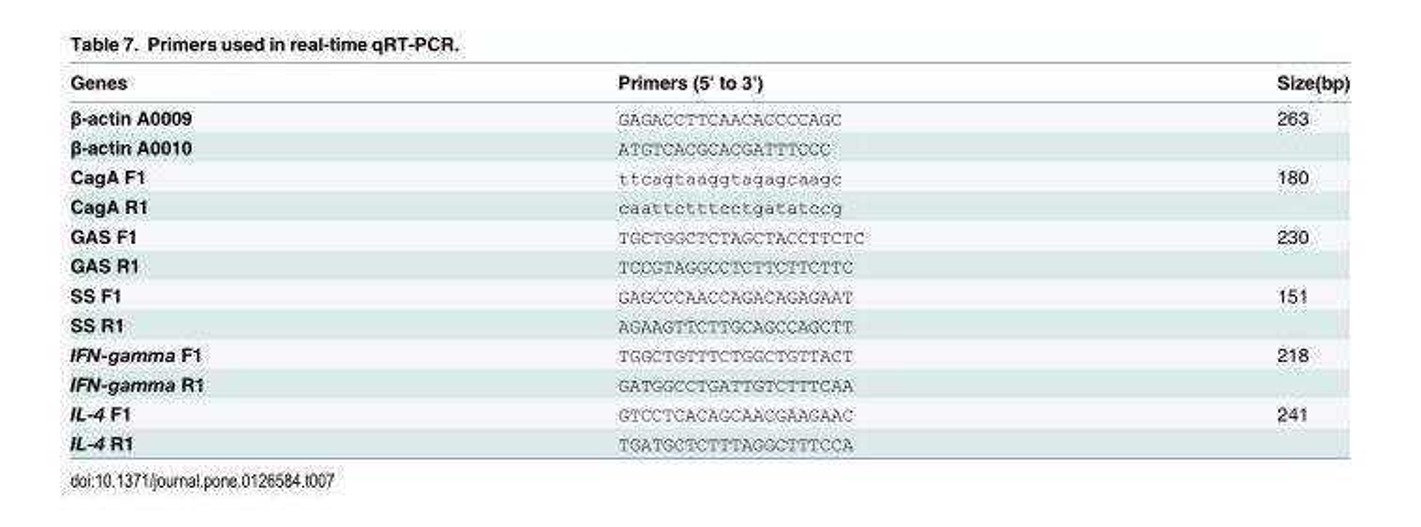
<table><thead><tr><td>Genes</td><td>Primers (5&#x27; to 3&#x27;)</td><td>Size(bp)</td></tr></thead><tbody><tr><td>β-actin A0009</td><td>GAGACCTTCAACACCCCAGC</td><td>263</td></tr><tr><td>β-actin A0010</td><td>ATGTCACGCACGATTTCCC</td><td></td></tr><tr><td>CagA F1</td><td>ttcagtaaggtagagcaagc</td><td>180</td></tr><tr><td>CagA R1</td><td>caattctttcctgatatccg</td><td></td></tr><tr><td>GAS F1</td><td>TGCTGGCTCTAGCTACCTTCTC</td><td>230</td></tr><tr><td>GAS R1</td><td>TCCGTAGGCCTCTTCTTCTTC</td><td></td></tr><tr><td>SS F1</td><td>GAGCCCAACCAGACAGAGAAT</td><td>151</td></tr><tr><td>SS R1</td><td>AGAAGTTCTTGCAGCCAGCTT</td><td></td></tr><tr><td>IFN-gamma F1</td><td>TGGCTGTTTCTGGCTGTTACT</td><td>218</td></tr><tr><td>IFN-gamma R1</td><td>GATGGCCTGATTGTCTTTCAA</td><td></td></tr><tr><td>IL-4 F1</td><td>GTCCTCACAGCAACGAAGAAC</td><td>241</td></tr><tr><td>IL-4 R1</td><td>TGATGCTCTTTAGGCTTTCCA</td><td></td></tr></tbody></table>